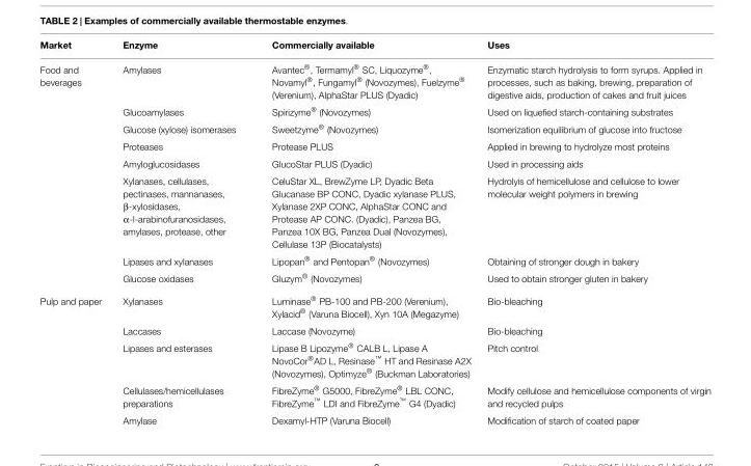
<table><thead><tr><td>Market</td><td>Enzyme</td><td>Commercially available</td><td>Uses</td></tr></thead><tbody><tr><td rowspan="8">Food and beverages</td><td>Amylases</td><td>Avantec<sup>®</sup>, Termamyl<sup>®</sup> SC, Liquozyme<sup>®</sup>, Novamyl<sup>®</sup>, Fungamyl<sup>®</sup> (Novozymes), Fuelzyme<sup>®</sup> (Verenium), AlphaStar PLUS (Dyadic)</td><td>Enzymatic starch hydrolysis to form syrups. Applied in processes, such as baking, brewing, preparation of digestive aids, production of cakes and fruit juices</td></tr><tr><td>Glucoamylases</td><td>Spirizyme<sup>®</sup> (Novozymes)</td><td>Used on liquefied starch-containing substrates</td></tr><tr><td>Glucose (xylose) isomerases</td><td>Sweetzyme<sup>®</sup> (Novozymes)</td><td>Isomerization equilibrium of glucose into fructose</td></tr><tr><td>Proteases</td><td>Protease PLUS</td><td>Applied in brewing to hydrolyze most proteins</td></tr><tr><td>Amyloglucosidases</td><td>GlucoStar PLUS (Dyadic)</td><td>Used in processing aids</td></tr><tr><td>Xylanases, cellulases, pectinases, mannanases, β-xylosidases, α-l-arabinofuranosidases, amylases, protease, other</td><td>CeluStar XL, BrewZyme LP, Dyadic Beta Glucanase BP CONC, Dyadic xylanase PLUS, Xylanase 2XP CONC, AlphaStar CONC and Protease AP CONC. (Dyadic), Panzea BG, Panzea 10X BG, Panzea Dual (Novozymes), Cellulase 13P (Biocatalysts)</td><td>Hydrolyis of hemicellulose and cellulose to lower molecular weight polymers in brewing</td></tr><tr><td>Lipases and xylanases</td><td>Lipopan<sup>®</sup> and Pentopan<sup>®</sup> (Novozymes)</td><td>Obtaining of stronger dough in bakery</td></tr><tr><td>Glucose oxidases</td><td>Gluzym<sup>®</sup> (Novozymes)</td><td>Used to obtain stronger gluten in bakery</td></tr><tr><td rowspan="5">Pulp and paper</td><td>Xylanases</td><td>Luminase<sup>®</sup> PB-100 and PB-200 (Verenium), Xylacid<sup>®</sup> (Varuna Biocell), Xyn 10A (Megazyme)</td><td>Bio-bleaching</td></tr><tr><td>Laccases</td><td>Laccase (Novozyme)</td><td>Bio-bleaching</td></tr><tr><td>Lipases and esterases</td><td>Lipase B Lipozyme<sup>®</sup> CALB L, Lipase A NovoCor<sup>®</sup>AD L, Resinase<sup>™</sup> HT and Resinase A2X (Novozymes), Optimyze<sup>®</sup> (Buckman Laboratories)</td><td>Pitch control</td></tr><tr><td>Cellulases/hemicellulases preparations</td><td>FibreZyme<sup>®</sup> G5000, FibreZyme<sup>®</sup> LBL CONC, FibreZyme<sup>™</sup> LDI and FibreZyme<sup>™</sup> G4 (Dyadic)</td><td>Modify cellulose and hemicellulose components of virgin and recycled pulps</td></tr><tr><td>Amylase</td><td>Dexamyl-HTP (Varuna Biocell)</td><td>Modification of starch of coated paper</td></tr></tbody></table>